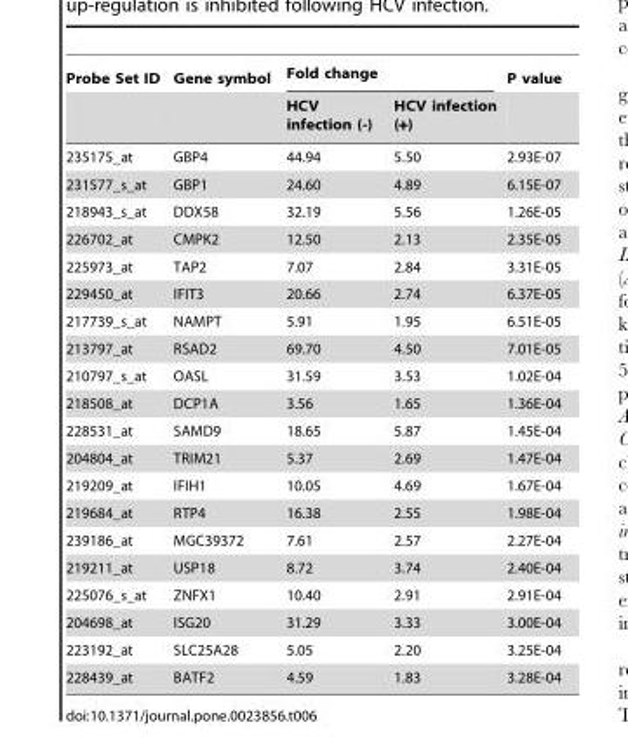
<table><thead><tr><td rowspan="2">Probe Set ID</td><td rowspan="2">Gene symbol</td><td colspan="2">Fold change</td><td rowspan="2">P value</td></tr><tr><td>HCV infection (-)</td><td>HCV infection (+)</td></tr></thead><tbody><tr><td>235175_at</td><td>GBP4</td><td>44.94</td><td>5.50</td><td>2.93E-07</td></tr><tr><td>231577_s_at</td><td>GBP1</td><td>24.60</td><td>4.89</td><td>6.15E-07</td></tr><tr><td>218943_s_at</td><td>DDX58</td><td>32.19</td><td>5.56</td><td>1.26E-05</td></tr><tr><td>226702_at</td><td>CMPK2</td><td>12.50</td><td>2.13</td><td>2.35E-05</td></tr><tr><td>225973_at</td><td>TAP2</td><td>7.07</td><td>2.84</td><td>3.31E-05</td></tr><tr><td>229450_at</td><td>IFIT3</td><td>20.66</td><td>2.74</td><td>6.37E-05</td></tr><tr><td>217739_s_at</td><td>NAMPT</td><td>5.91</td><td>1.95</td><td>6.51E-05</td></tr><tr><td>213797_at</td><td>RSAD2</td><td>69.70</td><td>4.50</td><td>7.01E-05</td></tr><tr><td>210797_s_at</td><td>OASL</td><td>31.59</td><td>3.53</td><td>1.02E-04</td></tr><tr><td>218508_at</td><td>DCP1A</td><td>3.56</td><td>1.65</td><td>1.36E-04</td></tr><tr><td>228531_at</td><td>SAMD9</td><td>18.65</td><td>5.87</td><td>1.45E-04</td></tr><tr><td>204804_at</td><td>TRIM21</td><td>5.37</td><td>2.69</td><td>1.47E-04</td></tr><tr><td>219209_at</td><td>IFIH1</td><td>10.05</td><td>4.69</td><td>1.67E-04</td></tr><tr><td>219684_at</td><td>RTP4</td><td>16.38</td><td>2.55</td><td>1.98E-04</td></tr><tr><td>239186_at</td><td>MGC39372</td><td>7.61</td><td>2.57</td><td>2.27E-04</td></tr><tr><td>219211_at</td><td>USP18</td><td>8.72</td><td>3.74</td><td>2.40E-04</td></tr><tr><td>225076_s_at</td><td>ZNFX1</td><td>10.40</td><td>2.91</td><td>2.91E-04</td></tr><tr><td>204698_at</td><td>ISG20</td><td>31.29</td><td>3.33</td><td>3.00E-04</td></tr><tr><td>223192_at</td><td>SLC25A28</td><td>5.05</td><td>2.20</td><td>3.25E-04</td></tr><tr><td>228439_at</td><td>BATF2</td><td>4.59</td><td>1.83</td><td>3.28E-04</td></tr></tbody></table>